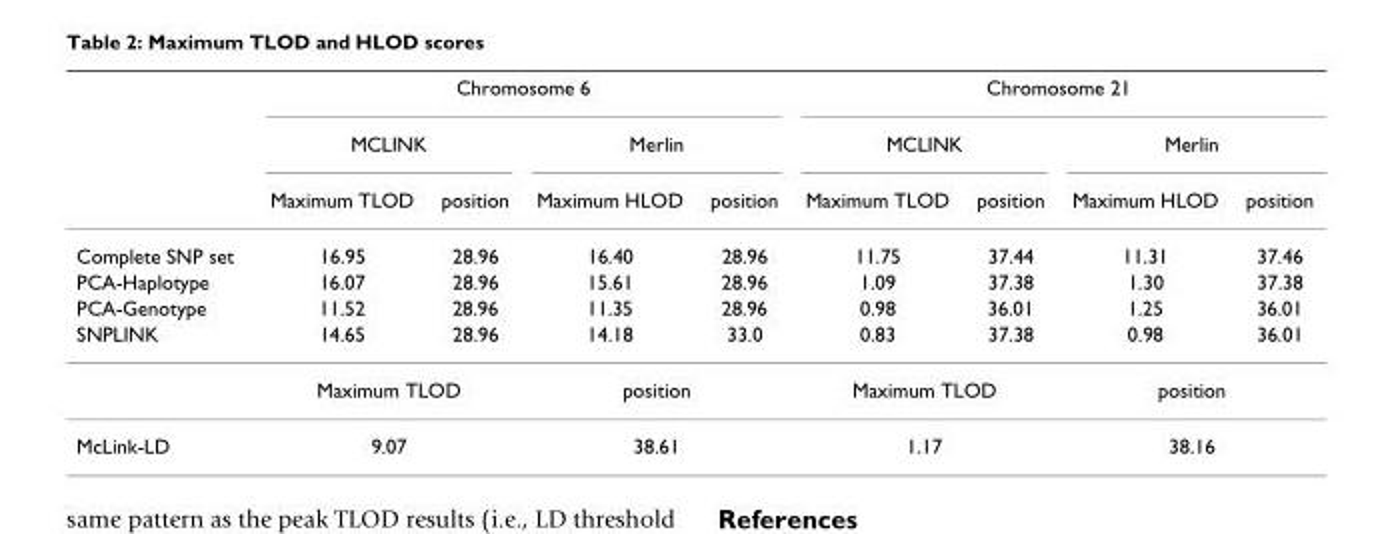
<table><thead><tr><td rowspan="3"></td><td colspan="4">Chromosome 6</td><td colspan="4">Chromosome 21</td></tr><tr><td colspan="2">MCLINK</td><td colspan="2">Merlin</td><td colspan="2">MCLINK</td><td colspan="2">Merlin</td></tr><tr><td>Maximum TLOD</td><td>position</td><td>Maximum HLOD</td><td>position</td><td>Maximum TLOD</td><td>position</td><td>Maximum HLOD</td><td>position</td></tr></thead><tbody><tr><td>Complete SNP set</td><td>16.95</td><td>28.96</td><td>16.40</td><td>28.96</td><td>11.75</td><td>37.44</td><td>11.31</td><td>37.46</td></tr><tr><td>PCA-Haplotype</td><td>16.07</td><td>28.96</td><td>15.61</td><td>28.96</td><td>1.09</td><td>37.38</td><td>1.30</td><td>37.38</td></tr><tr><td>PCA-Genotype</td><td>11.52</td><td>28.96</td><td>11.35</td><td>28.96</td><td>0.98</td><td>36.01</td><td>1.25</td><td>36.01</td></tr><tr><td rowspan="2">SNPLINK</td><td>14.65</td><td>28.96</td><td>14.18</td><td>33.0</td><td>0.83</td><td>37.38</td><td>0.98</td><td>36.01</td></tr><tr><td colspan="2">Maximum TLOD</td><td colspan="2">position</td><td colspan="2">Maximum TLOD</td><td colspan="2">position</td></tr><tr><td>McLink-LD</td><td colspan="2">9.07</td><td colspan="2">38.61</td><td colspan="2">1.17</td><td colspan="2">38.16</td></tr></tbody></table>